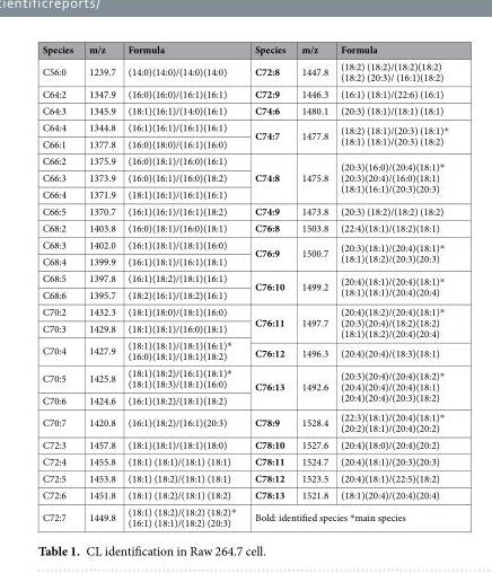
<table><thead><tr><td>Species</td><td>m/z</td><td>Formula</td><td>Species</td><td>m/z</td><td>Formula</td></tr></thead><tbody><tr><td>C56:0</td><td>1239.7</td><td>(14:0)(14:0)/(14:0)(14:0)</td><td>C72:8</td><td>1447.8</td><td>(18:2) (18:2)/(18:2)(18:2) (18:2) (20:3)/ (16:1)(18:2)</td></tr><tr><td>C64:2</td><td>1347.9</td><td>(16:0)(16:0)/(16:1)(16:1)</td><td>C72:9</td><td>1446.3</td><td>(16:1) (18:1)/(22:6) (16:1)</td></tr><tr><td>C64:3</td><td>1345.9</td><td>(18:1)(16:1)/(14:0)(16:1)</td><td>C74:6</td><td>1480.1</td><td>(20:3) (18:1)/(18:1) (18:1)</td></tr><tr><td>C64:4</td><td>1344.8</td><td>(16:1)(16:1)/(16:1)(16:1)</td><td rowspan="2">C74:7</td><td rowspan="2">1477.8</td><td rowspan="2">(18:2) (18:1)/(20:3) (18:1)* (18:1) (18:1)/(20:3) (18:2)</td></tr><tr><td>C66:1</td><td>1377.8</td><td>(16:0)(18:0)/(16:1)(16:0)</td></tr><tr><td>C66:2</td><td>1375.9</td><td>(16:0)(18:1)/(16:0)(16:1)</td><td rowspan="3">C74:8</td><td rowspan="3">1475.8</td><td rowspan="3">(20:3)(16:0)/(20:4)(18:1)* (20:3)(20:4)/(16:0)(18:1) (18:1)(16:1)/(20:3)(20:3)</td></tr><tr><td>C66:3</td><td>1373.9</td><td>(16:0)(16:1)/(16:0)(18:2)</td></tr><tr><td>C66:4</td><td>1371.9</td><td>(18:1)(16:1)/(16:1)(16:1)</td></tr><tr><td>C66:5</td><td>1370.7</td><td>(16:1)(16:1)/(16:1)(18:2)</td><td>C74:9</td><td>1473.8</td><td>(20:3) (18:2)/(18:2) (18:2)</td></tr><tr><td>C68:2</td><td>1403.8</td><td>(16:0)(18:1)/(16:0)(18:1)</td><td>C76:8</td><td>1503.8</td><td>(22:4)(18:1)/(18:2)(18:1)</td></tr><tr><td>C68:3</td><td>1402.0</td><td>(16:1)(18:1)/(18:1)(16:0)</td><td rowspan="2">C76:9</td><td rowspan="2">1500.7</td><td rowspan="2">(20:3)(18:1)/(20:4)(18:1)* (18:1)(18:2)/(20:3)(20:3)</td></tr><tr><td>C68:4</td><td>1399.9</td><td>(16:1)(18:1)/(16:1)(18:1)</td></tr><tr><td>C68:5</td><td>1397.8</td><td>(16:1)(18:2)/(18:1)(16:1)</td><td rowspan="2">C76:10</td><td rowspan="2">1499.2</td><td rowspan="2">(20:4)(18:1)/(20:4)(18:1)* (18:1)(18:1)/(20:4)(20:4)</td></tr><tr><td>C68:6</td><td>1395.7</td><td>(18:2)(16:1)/(18:2)(16:1)</td></tr><tr><td>C70:2</td><td>1432.3</td><td>(18:1)(18:0)/(18:1)(16:0)</td><td rowspan="3">C76:11</td><td rowspan="3">1497.7</td><td rowspan="3">(20:4)(18:2)/(20:4)(18:1)* (20:3)(20:4)/(18:2)(18:2) (18:1)(18:2)/(20:4)(20:4)</td></tr><tr><td>C70:3</td><td>1429.8</td><td>(18:1)(18:1)/(16:0)(18:1)</td></tr><tr><td rowspan="2">C70:4</td><td rowspan="2">1427.9</td><td rowspan="2">(18:1)(18:1)/(18:1)(16:1)* (16:0)(18:1)/(18:1)(18:2)</td></tr><tr><td>C76:12</td><td>1496.3</td><td>(20:4)(20:4)/(18:3)(18:1)</td></tr><tr><td>C70:5</td><td>1425.8</td><td>(18:1)(18:2)/(16:1)(18:1)* (18:1)(18:3)/(18:1)(16:0)</td><td rowspan="2">C76:13</td><td rowspan="2">1492.6</td><td rowspan="2">(20:3)(20:4)/(20:4)(18:2)* (20:4)(20:4)/(20:4)(18:1) (20:4)(20:4)/(20:3)(18:2)</td></tr><tr><td>C70:6</td><td>1424.6</td><td>(16:1)(18:2)/(18:1)(18:2)</td></tr><tr><td>C70:7</td><td>1420.8</td><td>(16:1)(18:2)/(16:1)(20:3)</td><td>C78:9</td><td>1528.4</td><td>(22:3)(18:1)/(20:4)(18:1)* (20:2)(18:1)/(20:4)(20:2)</td></tr><tr><td>C72:3</td><td>1457.8</td><td>(18:1)(18:1)/(18:1)(18:0)</td><td>C78:10</td><td>1527.6</td><td>(20:4)(18:0)/(20:4)(20:2)</td></tr><tr><td>C72:4</td><td>1455.8</td><td>(18:1) (18:1)/(18:1) (18:1)</td><td>C78:11</td><td>1524.7</td><td>(20:4)(18:1)/(20:3)(20:3)</td></tr><tr><td>C72:5</td><td>1453.8</td><td>(18:1) (18:2)/(18:1) (18:1)</td><td>C78:12</td><td>1523.5</td><td>(20:4)(18:1)/(22:5)(18:2)</td></tr><tr><td>C72:6</td><td>1451.8</td><td>(18:1) (18:2)/(18:1) (18:2)</td><td>C78:13</td><td>1521.8</td><td>(18:1)(20:4)/(20:4)(20:4)</td></tr><tr><td>C72:7</td><td>1449.8</td><td>(18:1) (18:2)/(18:2) (18:2)* (16:1) (18:1)/(18:2) (20:3)</td><td colspan="3">Bold: identified species *main species</td></tr></tbody></table>